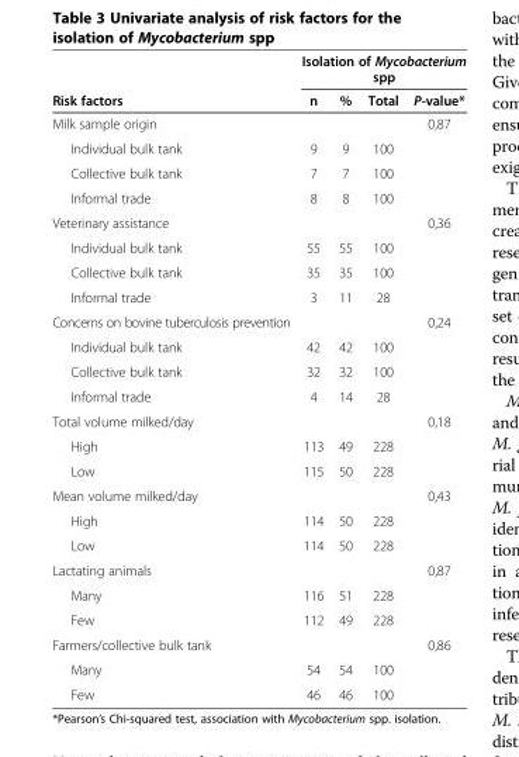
<table><thead><tr><td rowspan="2">Risk factors</td><td colspan="4">Isolation of Mycobacterium spp</td></tr><tr><td>n</td><td>%</td><td>Total</td><td>P-value*</td></tr></thead><tbody><tr><td>Milk sample origin</td><td></td><td></td><td></td><td>0,87</td></tr><tr><td>Individual bulk tank</td><td>9</td><td>9</td><td>100</td><td></td></tr><tr><td>Collective bulk tank</td><td>7</td><td>7</td><td>100</td><td></td></tr><tr><td>Informal trade</td><td>8</td><td>8</td><td>100</td><td></td></tr><tr><td>Veterinary assistance</td><td></td><td></td><td></td><td>0,36</td></tr><tr><td>Individual bulk tank</td><td>55</td><td>55</td><td>100</td><td></td></tr><tr><td>Collective bulk tank</td><td>35</td><td>35</td><td>100</td><td></td></tr><tr><td>Informal trade</td><td>3</td><td>11</td><td>28</td><td></td></tr><tr><td>Concerns on bovine tuberculosis prevention</td><td></td><td></td><td></td><td>0,24</td></tr><tr><td>Individual bulk tank</td><td>42</td><td>42</td><td>100</td><td></td></tr><tr><td>Collective bulk tank</td><td>32</td><td>32</td><td>100</td><td></td></tr><tr><td>Informal trade</td><td>4</td><td>14</td><td>28</td><td></td></tr><tr><td>Total volume milked/day</td><td></td><td></td><td></td><td>0,18</td></tr><tr><td>High</td><td>113</td><td>49</td><td>228</td><td></td></tr><tr><td>Low</td><td>115</td><td>50</td><td>228</td><td></td></tr><tr><td>Mean volume milked/day</td><td></td><td></td><td></td><td>0,43</td></tr><tr><td>High</td><td>114</td><td>50</td><td>228</td><td></td></tr><tr><td>Low</td><td>114</td><td>50</td><td>228</td><td></td></tr><tr><td>Lactating animals</td><td></td><td></td><td></td><td>0,87</td></tr><tr><td>Many</td><td>116</td><td>51</td><td>228</td><td></td></tr><tr><td>Few</td><td>112</td><td>49</td><td>228</td><td></td></tr><tr><td>Farmers/collective bulk tank</td><td></td><td></td><td></td><td>0,86</td></tr><tr><td>Many</td><td>54</td><td>54</td><td>100</td><td></td></tr><tr><td>Few</td><td>46</td><td>46</td><td>100</td><td></td></tr></tbody></table>